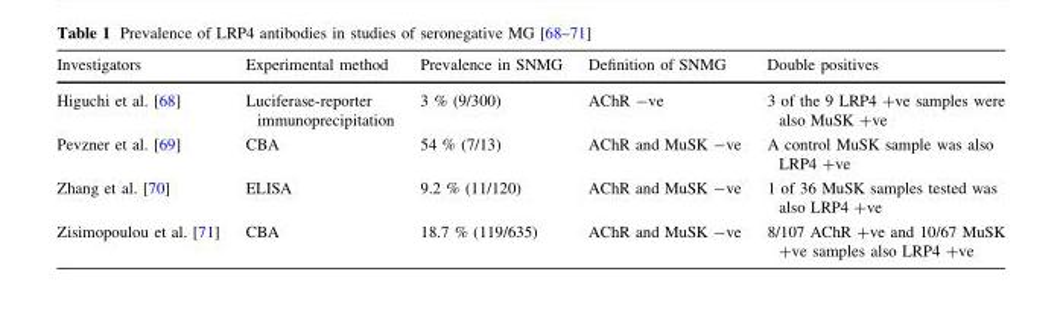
<table><thead><tr><td>Investigators</td><td>Experimental method</td><td>Prevalence in SNMG</td><td>Definition of SNMG</td><td>Double positives</td></tr></thead><tbody><tr><td>Higuchi et al. [68]</td><td>Luciferase-reporter immunoprecipitation</td><td>3 % (9/300)</td><td>AChR -ve</td><td>3 of the 9 LRP4 +ve samples were also MuSK +ve</td></tr><tr><td>Pevzner et al. [69]</td><td>CBA</td><td>54 % (7/13)</td><td>AChR and MuSK -ve</td><td>A control MuSK sample was also LRP4 +ve</td></tr><tr><td>Zhang et al. [70]</td><td>ELISA</td><td>9.2 % (11/120)</td><td>AChR and MuSK -ve</td><td>1 of 36 MuSK samples tested was also LRP4 +ve</td></tr><tr><td>Zisimopoulou et al. [71]</td><td>CBA</td><td>18.7 % (119/635)</td><td>AChR and MuSK -ve</td><td>8/107 AChR +ve and 10/67 MuSK +ve samples also LRP4 +ve</td></tr></tbody></table>